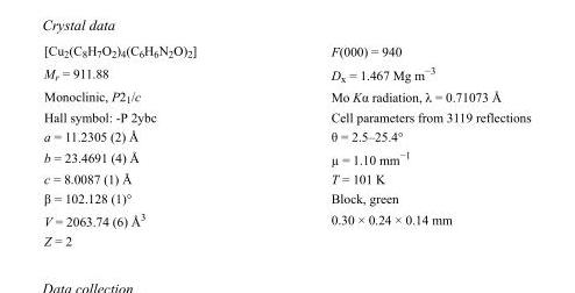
<table><tbody><tr><td>[Cu<sub>2</sub>(C<sub>8</sub>H<sub>7</sub>O<sub>2</sub>)<sub>4</sub>(C<sub>6</sub>H<sub>6</sub>N<sub>2</sub>O)<sub>2</sub>]</td><td>F(000) = 940</td></tr><tr><td>M<sub>r</sub> = 911.88</td><td>D<sub>x</sub> = 1.467 Mg m<sup>−3</sup></td></tr><tr><td>Monoclinic, P2<sub>1</sub>/c</td><td>Mo Kα radiation, λ = 0.71073 Å</td></tr><tr><td>Hall symbol: -P 2ybc</td><td>Cell parameters from 3119 reflections</td></tr><tr><td>a = 11.2305 (2) Å</td><td>θ = 2.5–25.4°</td></tr><tr><td>b = 23.4691 (4) Å</td><td>µ = 1.10 mm<sup>−1</sup></td></tr><tr><td>c = 8.0087 (1) Å</td><td>T = 101 K</td></tr><tr><td>β = 102.128 (1)°</td><td>Block, green</td></tr><tr><td>V = 2063.74 (6) Å<sup>3</sup></td><td>0.30 × 0.24 × 0.14 mm</td></tr><tr><td>Z = 2</td><td></td></tr></tbody></table>